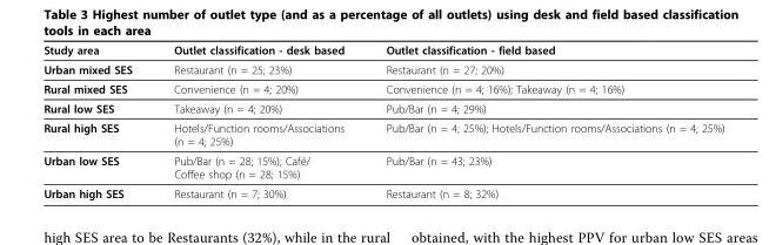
<table><thead><tr><td>Study area</td><td>Outlet classification - desk based</td><td>Outlet classification - field based</td></tr></thead><tbody><tr><td>Urban mixed SES</td><td>Restaurant (n = 25; 23%)</td><td>Restaurant (n = 27; 20%)</td></tr><tr><td>Rural mixed SES</td><td>Convenience (n = 4; 20%)</td><td>Convenience (n = 4; 16%); Takeaway (n = 4; 16%)</td></tr><tr><td>Rural low SES</td><td>Takeaway (n = 4; 20%)</td><td>Pub/Bar (n = 4; 29%)</td></tr><tr><td>Rural high SES</td><td>Hotels/Function rooms/Associations (n = 4; 25%)</td><td>Pub/Bar (n = 4; 25%); Hotels/Function rooms/Associations (n = 4; 25%)</td></tr><tr><td>Urban low SES</td><td>Pub/Bar (n = 28; 15%); Café/ Coffee shop (n = 28; 15%)</td><td>Pub/Bar (n = 43; 23%)</td></tr><tr><td>Urban high SES</td><td>Restaurant (n = 7; 30%)</td><td>Restaurant (n = 8; 32%)</td></tr></tbody></table>